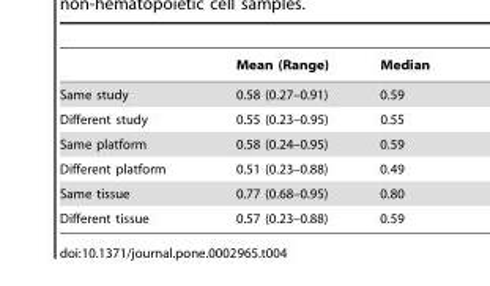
<table><thead><tr><td></td><td>Mean (Range)</td><td>Median</td></tr></thead><tbody><tr><td>Same study</td><td>0.58 (0.27–0.91)</td><td>0.59</td></tr><tr><td>Different study</td><td>0.55 (0.23–0.95)</td><td>0.55</td></tr><tr><td>Same platform</td><td>0.58 (0.24–0.95)</td><td>0.59</td></tr><tr><td>Different platform</td><td>0.51 (0.23–0.88)</td><td>0.49</td></tr><tr><td>Same tissue</td><td>0.77 (0.68–0.95)</td><td>0.80</td></tr><tr><td>Different tissue</td><td>0.57 (0.23–0.88)</td><td>0.59</td></tr></tbody></table>